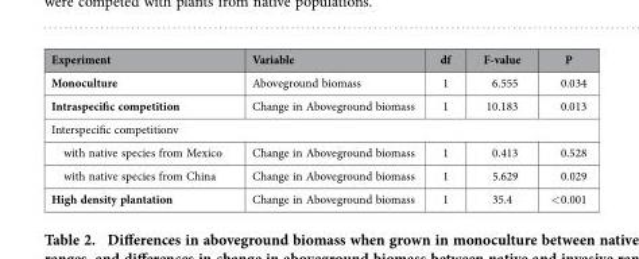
<table><thead><tr><td>Experiment</td><td>Variable</td><td>df</td><td>F-value</td><td>P</td></tr></thead><tbody><tr><td>Monoculture</td><td>Aboveground biomass</td><td>1</td><td>6.555</td><td>0.034</td></tr><tr><td>Intraspecific competition</td><td>Change in Aboveground biomass</td><td>1</td><td>10.183</td><td>0.013</td></tr><tr><td colspan="5">Interspecific competitionv</td></tr><tr><td>with native species from Mexico</td><td>Change in Aboveground biomass</td><td>1</td><td>0.413</td><td>0.528</td></tr><tr><td>with native species from China</td><td>Change in Aboveground biomass</td><td>1</td><td>5.629</td><td>0.029</td></tr><tr><td>High density plantation</td><td>Change in Aboveground biomass</td><td>1</td><td>35.4</td><td>&lt; 0.001</td></tr></tbody></table>